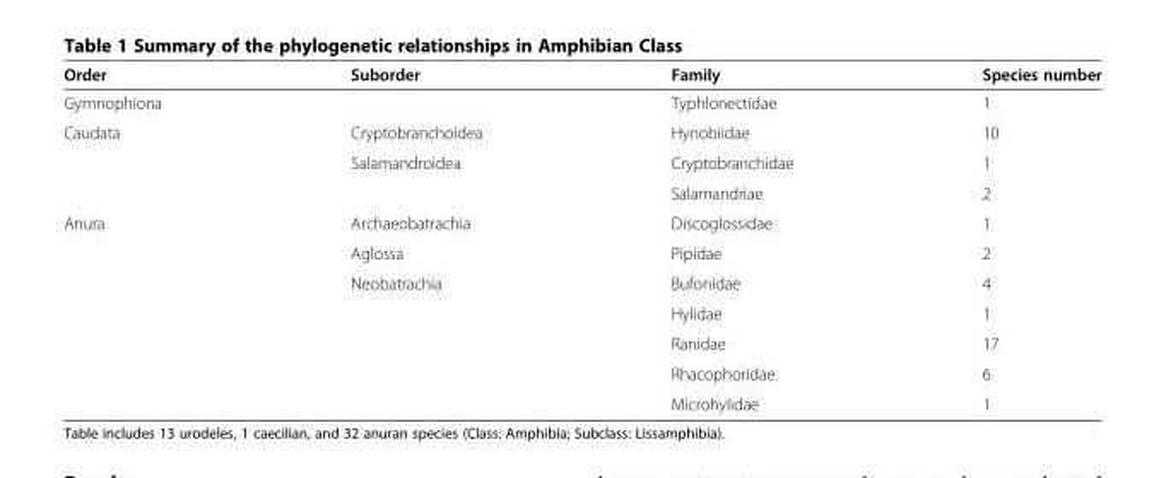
<table><thead><tr><td>Order</td><td>Suborder</td><td>Family</td><td>Species number</td></tr></thead><tbody><tr><td>Gymnophiona</td><td></td><td>Typhlonectidae</td><td>1</td></tr><tr><td rowspan="3">Caudata</td><td>Cryptobranchoidea</td><td>Hynobiidae</td><td>10</td></tr><tr><td>Salamandroidea</td><td>Cryptobranchidae</td><td>1</td></tr><tr><td></td><td>Salamandriae</td><td>2</td></tr><tr><td rowspan="7">Anura</td><td>Archaeobatrachia</td><td>Discoglossidae</td><td>1</td></tr><tr><td>Aglossa</td><td>Pipidae</td><td>2</td></tr><tr><td>Neobatrachia</td><td>Bufonidae</td><td>4</td></tr><tr><td></td><td>Hylidae</td><td>1</td></tr><tr><td></td><td>Ranidae</td><td>17</td></tr><tr><td></td><td>Rhacophoridae</td><td>6</td></tr><tr><td></td><td>Microhylidae</td><td>1</td></tr></tbody></table>